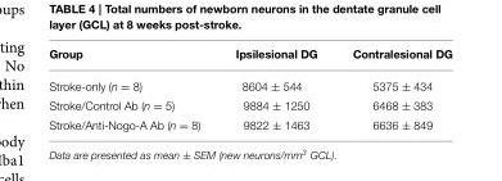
<table><thead><tr><td>Group</td><td>Ipsilesional DG</td><td>Contralesional DG</td></tr></thead><tbody><tr><td>Stroke-only (n = 8)</td><td>8604 ± 544</td><td>5375 ± 434</td></tr><tr><td>Stroke/Control Ab (n = 5)</td><td>9884 ± 1250</td><td>6468 ± 383</td></tr><tr><td>Stroke/Anti-Nogo-A Ab (n = 8)</td><td>9822 ± 1463</td><td>6636 ± 849</td></tr></tbody></table>